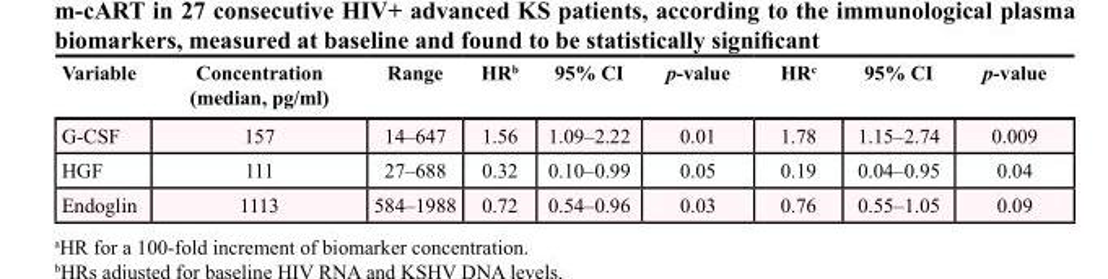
<table><thead><tr><td>Variable</td><td>Concentration (median, pg/ml)</td><td>Range</td><td>HR<sup>b</sup></td><td>95% CI</td><td>p-value</td><td>HR<sup>c</sup></td><td>95% CI</td><td>p-value</td></tr></thead><tbody><tr><td>G-CSF</td><td>157</td><td>14–647</td><td>1.56</td><td>1.09–2.22</td><td>0.01</td><td>1.78</td><td>1.15–2.74</td><td>0.009</td></tr><tr><td>HGF</td><td>111</td><td>27–688</td><td>0.32</td><td>0.10–0.99</td><td>0.05</td><td>0.19</td><td>0.04–0.95</td><td>0.04</td></tr><tr><td>Endoglin</td><td>1113</td><td>584–1988</td><td>0.72</td><td>0.54–0.96</td><td>0.03</td><td>0.76</td><td>0.55–1.05</td><td>0.09</td></tr></tbody></table>